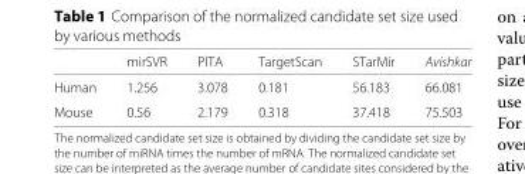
<table><thead><tr><td></td><td>mirSVR</td><td>PITA</td><td>TargetScan</td><td>STarMir</td><td>Avishkar</td></tr></thead><tbody><tr><td>Human</td><td>1.256</td><td>3.078</td><td>0.181</td><td>56.183</td><td>66.081</td></tr><tr><td>Mouse</td><td>0.56</td><td>2.179</td><td>0.318</td><td>37.418</td><td>75.503</td></tr></tbody></table>